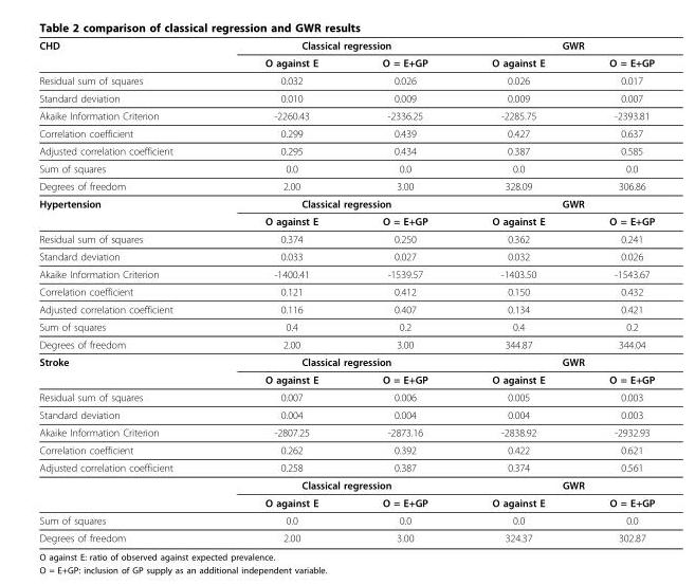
<table><thead><tr><td rowspan="2">CHD</td><td colspan="2">Classical regression</td><td colspan="2">GWR</td></tr><tr><td>O against E</td><td>O = E+GP</td><td>O against E</td><td>O = E+GP</td></tr></thead><tbody><tr><td>Residual sum of squares</td><td>0.032</td><td>0.026</td><td>0.026</td><td>0.017</td></tr><tr><td>Standard deviation</td><td>0.010</td><td>0.009</td><td>0.009</td><td>0.007</td></tr><tr><td>Akaike Information Criterion</td><td>-2260.43</td><td>-2336.25</td><td>-2285.75</td><td>-2393.81</td></tr><tr><td>Correlation coefficient</td><td>0.299</td><td>0.439</td><td>0.427</td><td>0.637</td></tr><tr><td>Adjusted correlation coefficient</td><td>0.295</td><td>0.434</td><td>0.387</td><td>0.585</td></tr><tr><td>Sum of squares</td><td>0.0</td><td>0.0</td><td>0.0</td><td>0.0</td></tr><tr><td>Degrees of freedom</td><td>2.00</td><td>3.00</td><td>328.09</td><td>306.86</td></tr><tr><td rowspan="2">Hypertension</td><td colspan="2">Classical regression</td><td colspan="2">GWR</td></tr><tr><td>O against E</td><td>O = E+GP</td><td>O against E</td><td>O = E+GP</td></tr><tr><td>Residual sum of squares</td><td>0.374</td><td>0.250</td><td>0.362</td><td>0.241</td></tr><tr><td>Standard deviation</td><td>0.033</td><td>0.027</td><td>0.032</td><td>0.026</td></tr><tr><td>Akaike Information Criterion</td><td>-1400.41</td><td>-1539.57</td><td>-1403.50</td><td>-1543.67</td></tr><tr><td>Correlation coefficient</td><td>0.121</td><td>0.412</td><td>0.150</td><td>0.432</td></tr><tr><td>Adjusted correlation coefficient</td><td>0.116</td><td>0.407</td><td>0.134</td><td>0.421</td></tr><tr><td>Sum of squares</td><td>0.4</td><td>0.2</td><td>0.4</td><td>0.2</td></tr><tr><td>Degrees of freedom</td><td>2.00</td><td>3.00</td><td>344.87</td><td>344.04</td></tr><tr><td rowspan="2">Stroke</td><td colspan="2">Classical regression</td><td colspan="2">GWR</td></tr><tr><td>O against E</td><td>O = E+GP</td><td>O against E</td><td>O = E+GP</td></tr><tr><td>Residual sum of squares</td><td>0.007</td><td>0.006</td><td>0.005</td><td>0.003</td></tr><tr><td>Standard deviation</td><td>0.004</td><td>0.004</td><td>0.004</td><td>0.003</td></tr><tr><td>Akaike Information Criterion</td><td>-2807.25</td><td>-2873.16</td><td>-2838.92</td><td>-2932.93</td></tr><tr><td>Correlation coefficient</td><td>0.262</td><td>0.392</td><td>0.422</td><td>0.621</td></tr><tr><td rowspan="3">Adjusted correlation coefficient</td><td>0.258</td><td>0.387</td><td>0.374</td><td>0.561</td></tr><tr><td colspan="2">Classical regression</td><td colspan="2">GWR</td></tr><tr><td>O against E</td><td>O = E+GP</td><td>O against E</td><td>O = E+GP</td></tr><tr><td>Sum of squares</td><td>0.0</td><td>0.0</td><td>0.0</td><td>0.0</td></tr><tr><td>Degrees of freedom</td><td>2.00</td><td>3.00</td><td>324.37</td><td>302.87</td></tr></tbody></table>